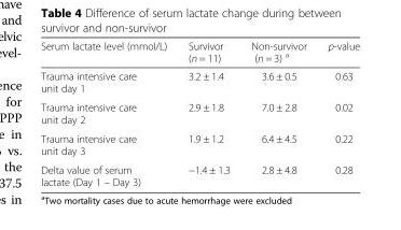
<table><thead><tr><td>Serum lactate level (mmol/L)</td><td>Survivor (n = 11)</td><td>Non-survivor (n = 3) <sup>a</sup></td><td>p-value</td></tr></thead><tbody><tr><td>Trauma intensive care unit day 1</td><td>3.2 ± 1.4</td><td>3.6 ± 0.5</td><td>0.63</td></tr><tr><td>Trauma intensive care unit day 2</td><td>2.9 ± 1.8</td><td>7.0 ± 2.8</td><td>0.02</td></tr><tr><td>Trauma intensive care unit day 3</td><td>1.9 ± 1.2</td><td>6.4 ± 4.5</td><td>0.22</td></tr><tr><td>Delta value of serum lactate (Day 1 – Day 3)</td><td>−1.4 ± 1.3</td><td>2.8 ± 4.8</td><td>0.28</td></tr></tbody></table>